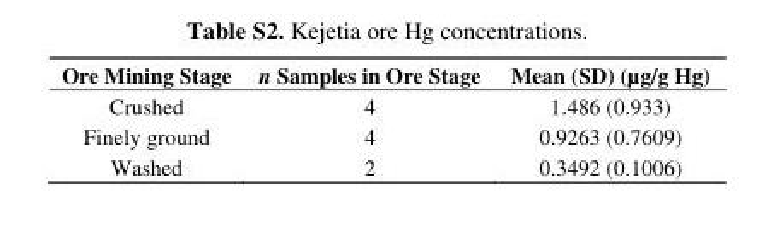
<table><thead><tr><td>Ore Mining Stage</td><td>n Samples in Ore Stage</td><td>Mean (SD) (µg/g Hg)</td></tr></thead><tbody><tr><td>Crushed</td><td>4</td><td>1.486 (0.933)</td></tr><tr><td>Finely ground</td><td>4</td><td>0.9263 (0.7609)</td></tr><tr><td>Washed</td><td>2</td><td>0.3492 (0.1006)</td></tr></tbody></table>